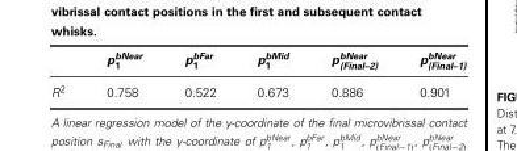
<table><thead><tr><td></td><td>p<sup>bNear</sup> <sub>1</sub></td><td>p<sup>bFar</sup> <sub>1</sub></td><td>p<sup>bMid</sup> <sub>1</sub></td><td>p<sup>bNear</sup> <sub>(Final–2)</sub></td><td>p<sup>bNear</sup> <sub>(Final–1)</sub></td></tr></thead><tbody><tr><td>R<sup>2</sup></td><td>0.758</td><td>0.522</td><td>0.673</td><td>0.886</td><td>0.901</td></tr></tbody></table>